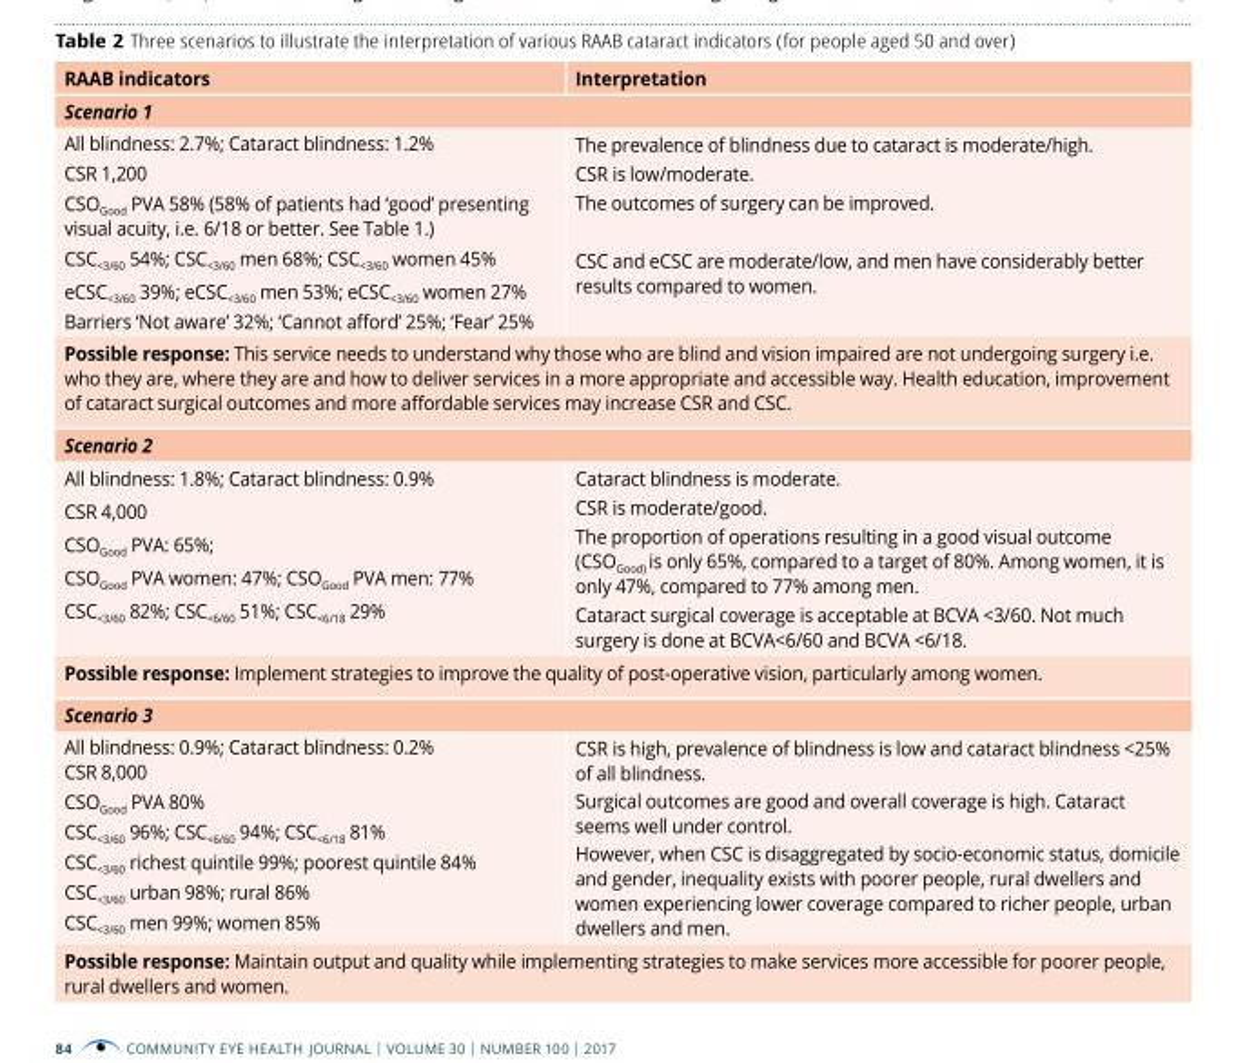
<table><thead><tr><td>RAAB indicators</td><td>Interpretation</td></tr></thead><tbody><tr><td colspan="2">Scenario 1</td></tr><tr><td>All blindness: 2.7%; Cataract blindness: 1.2% CSR 1,200 CSO<sub>Good</sub> PVA 58% (58% of patients had ‘good’ presenting visual acuity, i.e. 6/18 or better. See Table 1.) CSC<sub>&lt;3/60</sub> 54%; CSC<sub>&lt;3/60</sub> men 68%; CSC<sub>&lt;3/60</sub> women 45% eCSC<sub>&lt;3/60</sub> 39%; eCSC<sub>&lt;3/60</sub> men 53%; eCSC<sub>&lt;3/60</sub> women 27% Barriers ‘Not aware’ 32%; ‘Cannot afford’ 25%; ‘Fear’ 25%</td><td>The prevalence of blindness due to cataract is moderate/high. CSR is low/moderate. The outcomes of surgery can be improved. CSC and eCSC are moderate/low, and men have considerably better results compared to women.</td></tr><tr><td colspan="2">Possible response: This service needs to understand why those who are blind and vision impaired are not undergoing surgery i.e. who they are, where they are and how to deliver services in a more appropriate and accessible way. Health education, improvement of cataract surgical outcomes and more affordable services may increase CSR and CSC.</td></tr><tr><td colspan="2">Scenario 2</td></tr><tr><td>All blindness: 1.8%; Cataract blindness: 0.9% CSR 4,000 CSO<sub>Good</sub> PVA: 65%; CSO<sub>Good</sub> PVA women: 47%; CSO<sub>Good</sub> PVA men: 77% CSC<sub>&lt;3/60</sub> 82%; CSC<sub>&lt;6/60</sub> 51%; CSC<sub>&lt;6/18</sub> 29%</td><td>Cataract blindness is moderate. CSR is moderate/good. The proportion of operations resulting in a good visual outcome (CSO<sub>Good)</sub> is only 65%, compared to a target of 80%. Among women, it is only 47%, compared to 77% among men. Cataract surgical coverage is acceptable at BCVA &lt;3/60. Not much surgery is done at BCVA&lt;6/60 and BCVA &lt;6/18.</td></tr><tr><td colspan="2">Possible response: Implement strategies to improve the quality of post-operative vision, particularly among women.</td></tr><tr><td colspan="2">Scenario 3</td></tr><tr><td>All blindness: 0.9%; Cataract blindness: 0.2% CSR 8,000 CSO<sub>Good</sub> PVA 80% CSC<sub>&lt;3/60</sub> 96%; CSC<sub>&lt;6/60</sub> 94%; CSC<sub>&lt;6/18</sub> 81% CSC<sub>&lt;3/60</sub> richest quintile 99%; poorest quintile 84% CSC<sub>&lt;3/60</sub> urban 98%; rural 86% CSC<sub>&lt;3/60</sub> men 99%; women 85%</td><td>CSR is high, prevalence of blindness is low and cataract blindness &lt;25% of all blindness. Surgical outcomes are good and overall coverage is high. Cataract seems well under control. However, when CSC is disaggregated by socio-economic status, domicile and gender, inequality exists with poorer people, rural dwellers and women experiencing lower coverage compared to richer people, urban dwellers and men.</td></tr><tr><td colspan="2">Possible response: Maintain output and quality while implementing strategies to make services more accessible for poorer people, rural dwellers and women.</td></tr></tbody></table>